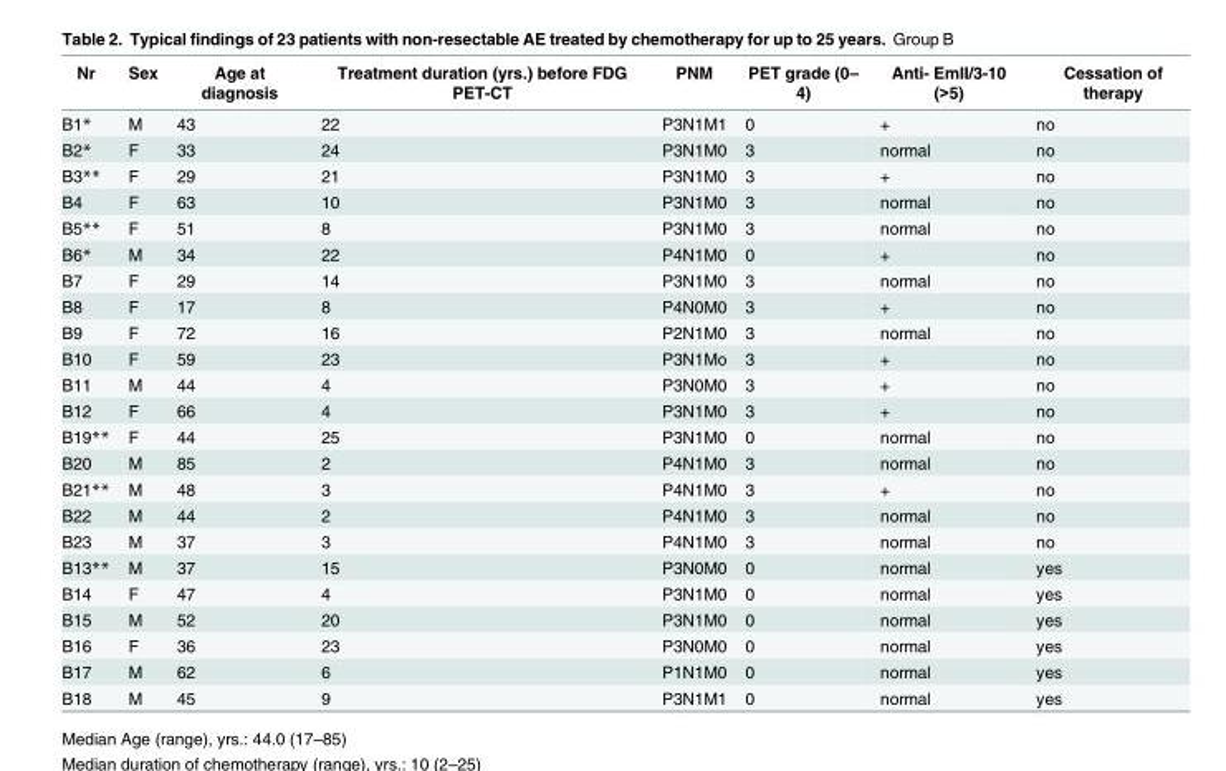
<table><thead><tr><td>Nr</td><td>Sex</td><td>Age at diagnosis</td><td>Treatment duration (yrs.) before FDG PET-CT</td><td>PNM</td><td>PET grade (0– 4)</td><td>Anti- EmII/3-10 (&gt;5)</td><td>Cessation of therapy</td></tr></thead><tbody><tr><td>B1*</td><td>M</td><td>43</td><td>22</td><td>P3N1M1</td><td>0</td><td>+</td><td>no</td></tr><tr><td>B2*</td><td>F</td><td>33</td><td>24</td><td>P3N1M0</td><td>3</td><td>normal</td><td>no</td></tr><tr><td>B3**</td><td>F</td><td>29</td><td>21</td><td>P3N1M0</td><td>3</td><td>+</td><td>no</td></tr><tr><td>B4</td><td>F</td><td>63</td><td>10</td><td>P3N1M0</td><td>3</td><td>normal</td><td>no</td></tr><tr><td>B5**</td><td>F</td><td>51</td><td>8</td><td>P3N1M0</td><td>3</td><td>normal</td><td>no</td></tr><tr><td>B6*</td><td>M</td><td>34</td><td>22</td><td>P4N1M0</td><td>0</td><td>+</td><td>no</td></tr><tr><td>B7</td><td>F</td><td>29</td><td>14</td><td>P3N1M0</td><td>3</td><td>normal</td><td>no</td></tr><tr><td>B8</td><td>F</td><td>17</td><td>8</td><td>P4N0M0</td><td>3</td><td>+</td><td>no</td></tr><tr><td>B9</td><td>F</td><td>72</td><td>16</td><td>P2N1M0</td><td>3</td><td>normal</td><td>no</td></tr><tr><td>B10</td><td>F</td><td>59</td><td>23</td><td>P3N1Mo</td><td>3</td><td>+</td><td>no</td></tr><tr><td>B11</td><td>M</td><td>44</td><td>4</td><td>P3N0M0</td><td>3</td><td>+</td><td>no</td></tr><tr><td>B12</td><td>F</td><td>66</td><td>4</td><td>P3N1M0</td><td>3</td><td>+</td><td>no</td></tr><tr><td>B19**</td><td>F</td><td>44</td><td>25</td><td>P3N1M0</td><td>0</td><td>normal</td><td>no</td></tr><tr><td>B20</td><td>M</td><td>85</td><td>2</td><td>P4N1M0</td><td>3</td><td>normal</td><td>no</td></tr><tr><td>B21**</td><td>M</td><td>48</td><td>3</td><td>P4N1M0</td><td>3</td><td>+</td><td>no</td></tr><tr><td>B22</td><td>M</td><td>44</td><td>2</td><td>P4N1M0</td><td>3</td><td>normal</td><td>no</td></tr><tr><td>B23</td><td>M</td><td>37</td><td>3</td><td>P4N1M0</td><td>3</td><td>normal</td><td>no</td></tr><tr><td>B13**</td><td>M</td><td>37</td><td>15</td><td>P3N0M0</td><td>0</td><td>normal</td><td>yes</td></tr><tr><td>B14</td><td>F</td><td>47</td><td>4</td><td>P3N1M0</td><td>0</td><td>normal</td><td>yes</td></tr><tr><td>B15</td><td>M</td><td>52</td><td>20</td><td>P3N1M0</td><td>0</td><td>normal</td><td>yes</td></tr><tr><td>B16</td><td>F</td><td>36</td><td>23</td><td>P3N0M0</td><td>0</td><td>normal</td><td>yes</td></tr><tr><td>B17</td><td>M</td><td>62</td><td>6</td><td>P1N1M0</td><td>0</td><td>normal</td><td>yes</td></tr><tr><td>B18</td><td>M</td><td>45</td><td>9</td><td>P3N1M1</td><td>0</td><td>normal</td><td>yes</td></tr></tbody></table>